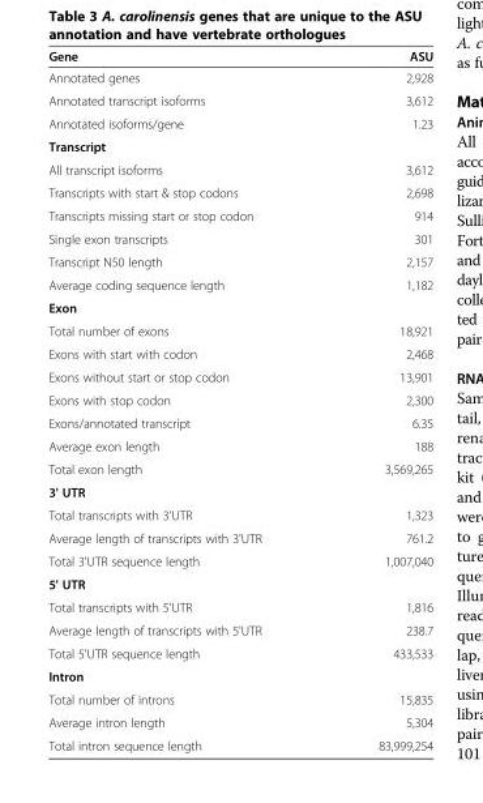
<table><thead><tr><td>Gene</td><td>ASU</td></tr></thead><tbody><tr><td>Annotated genes</td><td>2,928</td></tr><tr><td>Annotated transcript isoforms</td><td>3,612</td></tr><tr><td>Annotated isoforms/gene</td><td>1.23</td></tr><tr><td colspan="2">Transcript</td></tr><tr><td>All transcript isoforms</td><td>3,612</td></tr><tr><td>Transcripts with start &amp; stop codons</td><td>2,698</td></tr><tr><td>Transcripts missing start or stop codon</td><td>914</td></tr><tr><td>Single exon transcripts</td><td>301</td></tr><tr><td>Transcript N50 length</td><td>2,157</td></tr><tr><td>Average coding sequence length</td><td>1,182</td></tr><tr><td colspan="2">Exon</td></tr><tr><td>Total number of exons</td><td>18,921</td></tr><tr><td>Exons with start with codon</td><td>2,468</td></tr><tr><td>Exons without start or stop codon</td><td>13,901</td></tr><tr><td>Exons with stop codon</td><td>2,300</td></tr><tr><td>Exons/annotated transcript</td><td>6.35</td></tr><tr><td>Average exon length</td><td>188</td></tr><tr><td>Total exon length</td><td>3,569,265</td></tr><tr><td colspan="2">3&#x27; UTR</td></tr><tr><td>Total transcripts with 3&#x27;UTR</td><td>1,323</td></tr><tr><td>Average length of transcripts with 3&#x27;UTR</td><td>761.2</td></tr><tr><td>Total 3&#x27;UTR sequence length</td><td>1,007,040</td></tr><tr><td colspan="2">5&#x27; UTR</td></tr><tr><td>Total transcripts with 5&#x27;UTR</td><td>1,816</td></tr><tr><td>Average length of transcripts with 5&#x27;UTR</td><td>238.7</td></tr><tr><td>Total 5&#x27;UTR sequence length</td><td>433,533</td></tr><tr><td colspan="2">Intron</td></tr><tr><td>Total number of introns</td><td>15,835</td></tr><tr><td>Average intron length</td><td>5,304</td></tr><tr><td>Total intron sequence length</td><td>83,999,254</td></tr></tbody></table>